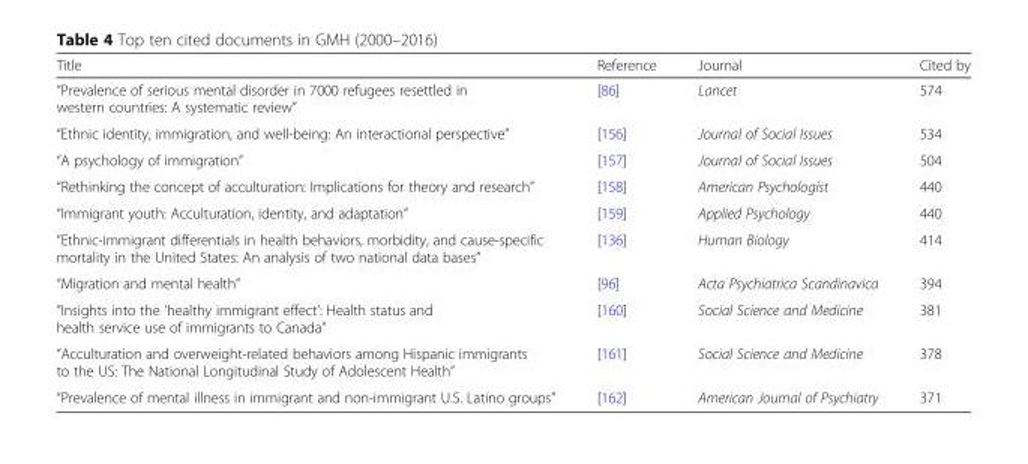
<table><thead><tr><td>Title</td><td>Reference</td><td>Journal</td><td>Cited by</td></tr></thead><tbody><tr><td>“Prevalence of serious mental disorder in 7000 refugees resettled in western countries: A systematic review”</td><td>[86]</td><td>Lancet</td><td>574</td></tr><tr><td>“Ethnic identity, immigration, and well-being: An interactional perspective”</td><td>[156]</td><td>Journal of Social Issues</td><td>534</td></tr><tr><td>“A psychology of immigration”</td><td>[157]</td><td>Journal of Social Issues</td><td>504</td></tr><tr><td>“Rethinking the concept of acculturation: Implications for theory and research”</td><td>[158]</td><td>American Psychologist</td><td>440</td></tr><tr><td>“Immigrant youth: Acculturation, identity, and adaptation”</td><td>[159]</td><td>Applied Psychology</td><td>440</td></tr><tr><td>“Ethnic-immigrant differentials in health behaviors, morbidity, and cause-specific mortality in the United States: An analysis of two national data bases”</td><td>[136]</td><td>Human Biology</td><td>414</td></tr><tr><td>“Migration and mental health”</td><td>[96]</td><td>Acta Psychiatrica Scandinavica</td><td>394</td></tr><tr><td>“Insights into the ‘healthy immigrant effect’: Health status and health service use of immigrants to Canada”</td><td>[160]</td><td>Social Science and Medicine</td><td>381</td></tr><tr><td>“Acculturation and overweight-related behaviors among Hispanic immigrants to the US: The National Longitudinal Study of Adolescent Health”</td><td>[161]</td><td>Social Science and Medicine</td><td>378</td></tr><tr><td>“Prevalence of mental illness in immigrant and non-immigrant U.S. Latino groups”</td><td>[162]</td><td>American Journal of Psychiatry</td><td>371</td></tr></tbody></table>